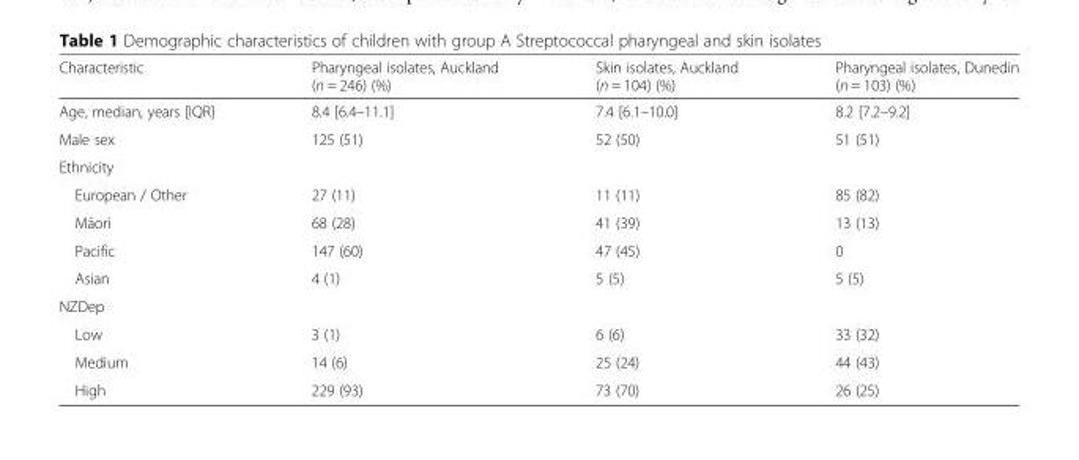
<table><thead><tr><td>Characteristic</td><td>Pharyngeal isolates, Auckland (n = 246) (%)</td><td>Skin isolates, Auckland (n = 104) (%)</td><td>Pharyngeal isolates, Dunedin (n = 103) (%)</td></tr></thead><tbody><tr><td>Age, median, years [IQR]</td><td>8.4 [6.4–11.1]</td><td>7.4 [6.1–10.0]</td><td>8.2 [7.2–9.2]</td></tr><tr><td>Male sex</td><td>125 (51)</td><td>52 (50)</td><td>51 (51)</td></tr><tr><td colspan="4">Ethnicity</td></tr><tr><td>European / Other</td><td>27 (11)</td><td>11 (11)</td><td>85 (82)</td></tr><tr><td>Māori</td><td>68 (28)</td><td>41 (39)</td><td>13 (13)</td></tr><tr><td>Pacific</td><td>147 (60)</td><td>47 (45)</td><td>0</td></tr><tr><td>Asian</td><td>4 (1)</td><td>5 (5)</td><td>5 (5)</td></tr><tr><td colspan="4">NZDep</td></tr><tr><td>Low</td><td>3 (1)</td><td>6 (6)</td><td>33 (32)</td></tr><tr><td>Medium</td><td>14 (6)</td><td>25 (24)</td><td>44 (43)</td></tr><tr><td>High</td><td>229 (93)</td><td>73 (70)</td><td>26 (25)</td></tr></tbody></table>